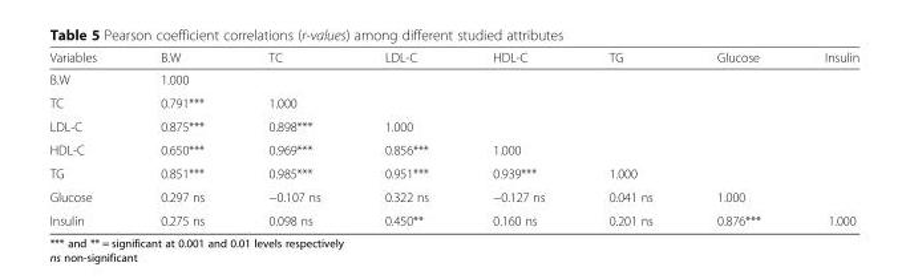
<table><thead><tr><td>Variables</td><td>B.W</td><td>TC</td><td>LDL-C</td><td>HDL-C</td><td>TG</td><td>Glucose</td><td>Insulin</td></tr></thead><tbody><tr><td>B.W</td><td>1.000</td><td></td><td></td><td></td><td></td><td></td><td></td></tr><tr><td>TC</td><td>0.791***</td><td>1.000</td><td></td><td></td><td></td><td></td><td></td></tr><tr><td>LDL-C</td><td>0.875***</td><td>0.898***</td><td>1.000</td><td></td><td></td><td></td><td></td></tr><tr><td>HDL-C</td><td>0.650***</td><td>0.969***</td><td>0.856***</td><td>1.000</td><td></td><td></td><td></td></tr><tr><td>TG</td><td>0.851***</td><td>0.985***</td><td>0.951***</td><td>0.939***</td><td>1.000</td><td></td><td></td></tr><tr><td>Glucose</td><td>0.297 ns</td><td>−0.107 ns</td><td>0.322 ns</td><td>−0.127 ns</td><td>0.041 ns</td><td>1.000</td><td></td></tr><tr><td>Insulin</td><td>0.275 ns</td><td>0.098 ns</td><td>0.450**</td><td>0.160 ns</td><td>0.201 ns</td><td>0.876***</td><td>1.000</td></tr></tbody></table>